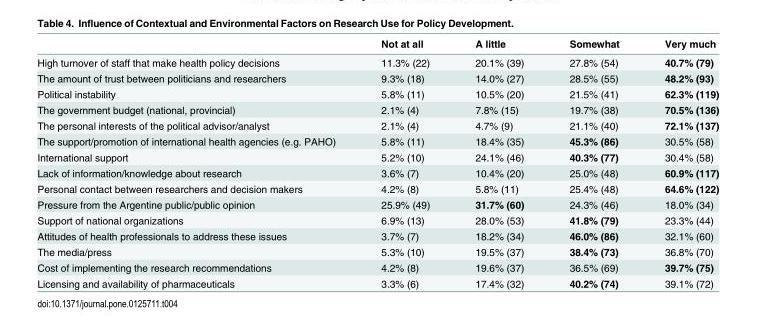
<table><thead><tr><td></td><td>Not at all</td><td>A little</td><td>Somewhat</td><td>Very much</td></tr></thead><tbody><tr><td>High turnover of staff that make health policy decisions</td><td>11.3% (22)</td><td>20.1% (39)</td><td>27.8% (54)</td><td>40.7% (79)</td></tr><tr><td>The amount of trust between politicians and researchers</td><td>9.3% (18)</td><td>14.0% (27)</td><td>28.5% (55)</td><td>48.2% (93)</td></tr><tr><td>Political instability</td><td>5.8% (11)</td><td>10.5% (20)</td><td>21.5% (41)</td><td>62.3% (119)</td></tr><tr><td>The government budget (national, provincial)</td><td>2.1% (4)</td><td>7.8% (15)</td><td>19.7% (38)</td><td>70.5% (136)</td></tr><tr><td>The personal interests of the political advisor/analyst</td><td>2.1% (4)</td><td>4.7% (9)</td><td>21.1% (40)</td><td>72.1% (137)</td></tr><tr><td>The support/promotion of international health agencies (e.g. PAHO)</td><td>5.8% (11)</td><td>18.4% (35)</td><td>45.3% (86)</td><td>30.5% (58)</td></tr><tr><td>International support</td><td>5.2% (10)</td><td>24.1% (46)</td><td>40.3% (77)</td><td>30.4% (58)</td></tr><tr><td>Lack of information/knowledge about research</td><td>3.6% (7)</td><td>10.4% (20)</td><td>25.0% (48)</td><td>60.9% (117)</td></tr><tr><td>Personal contact between researchers and decision makers</td><td>4.2% (8)</td><td>5.8% (11)</td><td>25.4% (48)</td><td>64.6% (122)</td></tr><tr><td>Pressure from the Argentine public/public opinion</td><td>25.9% (49)</td><td>31.7% (60)</td><td>24.3% (46)</td><td>18.0% (34)</td></tr><tr><td>Support of national organizations</td><td>6.9% (13)</td><td>28.0% (53)</td><td>41.8% (79)</td><td>23.3% (44)</td></tr><tr><td>Attitudes of health professionals to address these issues</td><td>3.7% (7)</td><td>18.2% (34)</td><td>46.0% (86)</td><td>32.1% (60)</td></tr><tr><td>The media/press</td><td>5.3% (10)</td><td>19.5% (37)</td><td>38.4% (73)</td><td>36.8% (70)</td></tr><tr><td>Cost of implementing the research recommendations</td><td>4.2% (8)</td><td>19.6% (37)</td><td>36.5% (69)</td><td>39.7% (75)</td></tr><tr><td>Licensing and availability of pharmaceuticals</td><td>3.3% (6)</td><td>17.4% (32)</td><td>40.2% (74)</td><td>39.1% (72)</td></tr></tbody></table>